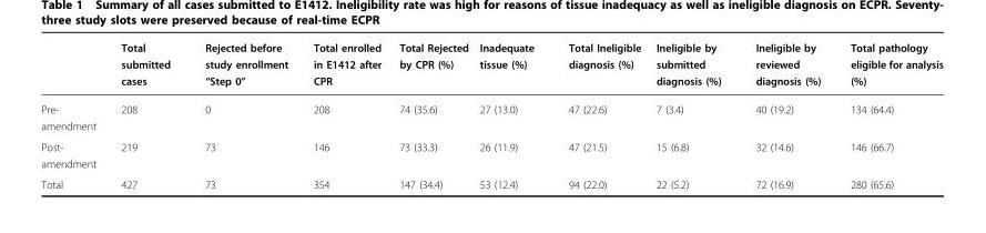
<table><thead><tr><td></td><td>Total submitted cases</td><td>Rejected before study enrollment “Step 0”</td><td>Total enrolled in E1412 after CPR</td><td>Total Rejected by CPR (%)</td><td>Inadequate tissue (%)</td><td>Total Ineligible diagnosis (%)</td><td>Ineligible by submitted diagnosis (%)</td><td>Ineligible by reviewed diagnosis (%)</td><td>Total pathology eligible for analysis (%)</td></tr></thead><tbody><tr><td>Pre- amendment</td><td>208</td><td>0</td><td>208</td><td>74 (35.6)</td><td>27 (13.0)</td><td>47 (22.6)</td><td>7 (3.4)</td><td>40 (19.2)</td><td>134 (64.4)</td></tr><tr><td>Post- amendment</td><td>219</td><td>73</td><td>146</td><td>73 (33.3)</td><td>26 (11.9)</td><td>47 (21.5)</td><td>15 (6.8)</td><td>32 (14.6)</td><td>146 (66.7)</td></tr><tr><td>Total</td><td>427</td><td>73</td><td>354</td><td>147 (34.4)</td><td>53 (12.4)</td><td>94 (22.0)</td><td>22 (5.2)</td><td>72 (16.9)</td><td>280 (65.6)</td></tr></tbody></table>